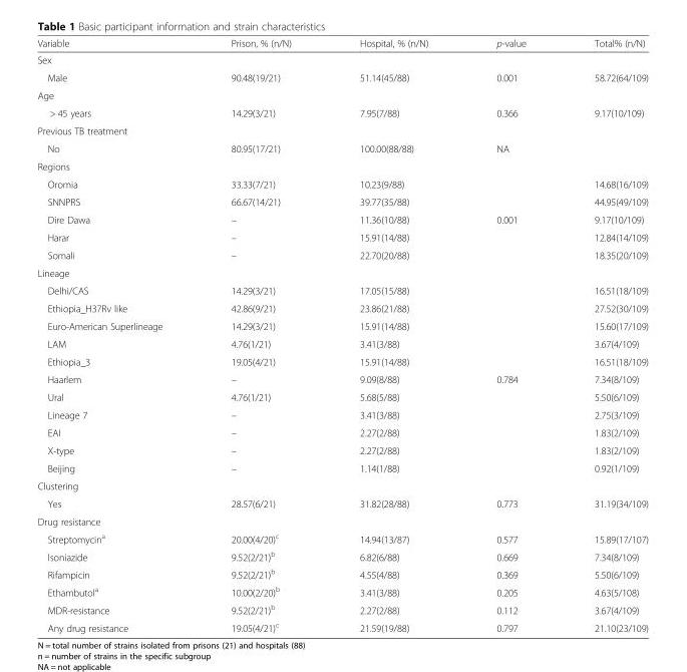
<table><thead><tr><td>Variable</td><td>Prison, % (n/N)</td><td>Hospital, % (n/N)</td><td>p-value</td><td>Total% (n/N)</td></tr></thead><tbody><tr><td colspan="5">Sex</td></tr><tr><td>Male</td><td>90.48(19/21)</td><td>51.14(45/88)</td><td>0.001</td><td>58.72(64/109)</td></tr><tr><td colspan="5">Age</td></tr><tr><td>&gt; 45 years</td><td>14.29(3/21)</td><td>7.95(7/88)</td><td>0.366</td><td>9.17(10/109)</td></tr><tr><td colspan="5">Previous TB treatment</td></tr><tr><td>No</td><td>80.95(17/21)</td><td>100.00(88/88)</td><td>NA</td><td></td></tr><tr><td colspan="5">Regions</td></tr><tr><td>Oromia</td><td>33.33(7/21)</td><td>10.23(9/88)</td><td></td><td>14.68(16/109)</td></tr><tr><td>SNNPRS</td><td>66.67(14/21)</td><td>39.77(35/88)</td><td></td><td>44.95(49/109)</td></tr><tr><td>Dire Dawa</td><td>–</td><td>11.36(10/88)</td><td>0.001</td><td>9.17(10/109)</td></tr><tr><td>Harar</td><td>–</td><td>15.91(14/88)</td><td></td><td>12.84(14/109)</td></tr><tr><td>Somali</td><td>–</td><td>22.70(20/88)</td><td></td><td>18.35(20/109)</td></tr><tr><td colspan="5">Lineage</td></tr><tr><td>Delhi/CAS</td><td>14.29(3/21)</td><td>17.05(15/88)</td><td></td><td>16.51(18/109)</td></tr><tr><td>Ethiopia_H37Rv like</td><td>42.86(9/21)</td><td>23.86(21/88)</td><td></td><td>27.52(30/109)</td></tr><tr><td>Euro-American Superlineage</td><td>14.29(3/21)</td><td>15.91(14/88)</td><td></td><td>15.60(17/109)</td></tr><tr><td>LAM</td><td>4.76(1/21)</td><td>3.41(3/88)</td><td></td><td>3.67(4/109)</td></tr><tr><td>Ethiopia_3</td><td>19.05(4/21)</td><td>15.91(14/88)</td><td></td><td>16.51(18/109)</td></tr><tr><td>Haarlem</td><td>–</td><td>9.09(8/88)</td><td>0.784</td><td>7.34(8/109)</td></tr><tr><td>Ural</td><td>4.76(1/21)</td><td>5.68(5/88)</td><td></td><td>5.50(6/109)</td></tr><tr><td>Lineage 7</td><td>–</td><td>3.41(3/88)</td><td></td><td>2.75(3/109)</td></tr><tr><td>EAI</td><td>–</td><td>2.27(2/88)</td><td></td><td>1.83(2/109)</td></tr><tr><td>X-type</td><td>–</td><td>2.27(2/88)</td><td></td><td>1.83(2/109)</td></tr><tr><td>Beijing</td><td>–</td><td>1.14(1/88)</td><td></td><td>0.92(1/109)</td></tr><tr><td colspan="5">Clustering</td></tr><tr><td>Yes</td><td>28.57(6/21)</td><td>31.82(28/88)</td><td>0.773</td><td>31.19(34/109)</td></tr><tr><td colspan="5">Drug resistance</td></tr><tr><td>Streptomycin<sup>a</sup></td><td>20.00(4/20)<sup>c</sup></td><td>14.94(13/87)</td><td>0.577</td><td>15.89(17/107)</td></tr><tr><td>Isoniazide</td><td>9.52(2/21)<sup>b</sup></td><td>6.82(6/88)</td><td>0.669</td><td>7.34(8/109)</td></tr><tr><td>Rifampicin</td><td>9.52(2/21)<sup>b</sup></td><td>4.55(4/88)</td><td>0.369</td><td>5.50(6/109)</td></tr><tr><td>Ethambutol<sup>a</sup></td><td>10.00(2/20)<sup>b</sup></td><td>3.41(3/88)</td><td>0.205</td><td>4.63(5/108)</td></tr><tr><td>MDR-resistance</td><td>9.52(2/21)<sup>b</sup></td><td>2.27(2/88)</td><td>0.112</td><td>3.67(4/109)</td></tr><tr><td>Any drug resistance</td><td>19.05(4/21)<sup>c</sup></td><td>21.59(19/88)</td><td>0.797</td><td>21.10(23/109)</td></tr></tbody></table>